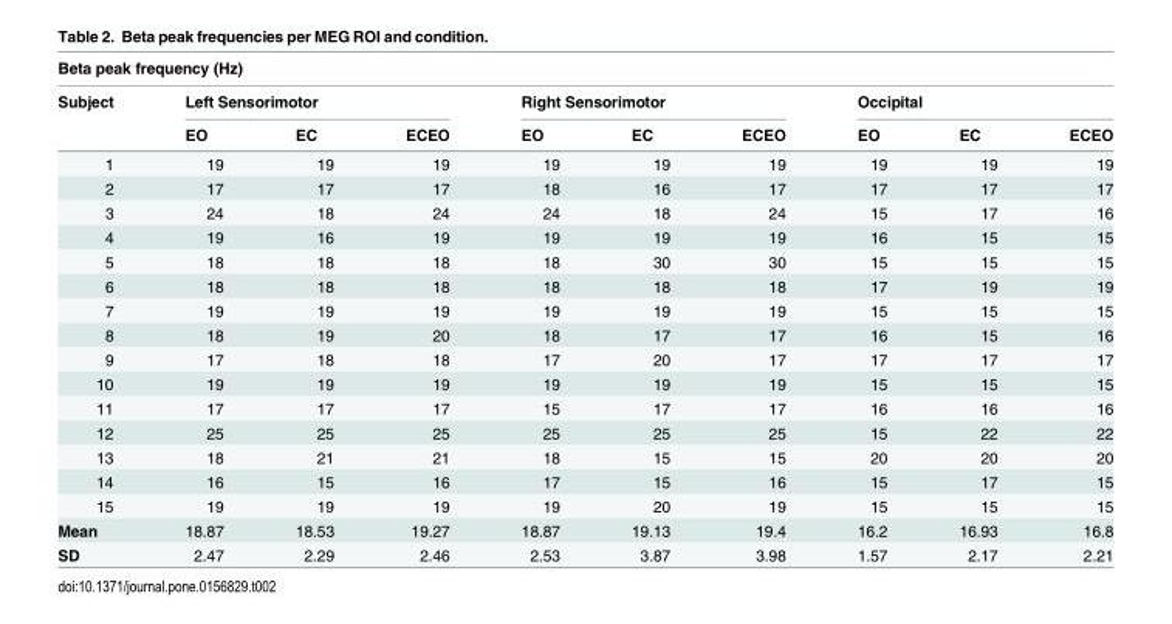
<table><thead><tr><td colspan="10">Beta peak frequency (Hz)</td></tr><tr><td rowspan="2">Subject</td><td colspan="3">Left Sensorimotor</td><td colspan="3">Right Sensorimotor</td><td colspan="3">Occipital</td></tr><tr><td>EO</td><td>EC</td><td>ECEO</td><td>EO</td><td>EC</td><td>ECEO</td><td>EO</td><td>EC</td><td>ECEO</td></tr></thead><tbody><tr><td>1</td><td>19</td><td>19</td><td>19</td><td>19</td><td>19</td><td>19</td><td>19</td><td>19</td><td>19</td></tr><tr><td>2</td><td>17</td><td>17</td><td>17</td><td>18</td><td>16</td><td>17</td><td>17</td><td>17</td><td>17</td></tr><tr><td>3</td><td>24</td><td>18</td><td>24</td><td>24</td><td>18</td><td>24</td><td>15</td><td>17</td><td>16</td></tr><tr><td>4</td><td>19</td><td>16</td><td>19</td><td>19</td><td>19</td><td>19</td><td>16</td><td>15</td><td>15</td></tr><tr><td>5</td><td>18</td><td>18</td><td>18</td><td>18</td><td>30</td><td>30</td><td>15</td><td>15</td><td>15</td></tr><tr><td>6</td><td>18</td><td>18</td><td>18</td><td>18</td><td>18</td><td>18</td><td>17</td><td>19</td><td>19</td></tr><tr><td>7</td><td>19</td><td>19</td><td>19</td><td>19</td><td>19</td><td>19</td><td>15</td><td>15</td><td>15</td></tr><tr><td>8</td><td>18</td><td>19</td><td>20</td><td>18</td><td>17</td><td>17</td><td>16</td><td>15</td><td>16</td></tr><tr><td>9</td><td>17</td><td>18</td><td>18</td><td>17</td><td>20</td><td>17</td><td>17</td><td>17</td><td>17</td></tr><tr><td>10</td><td>19</td><td>19</td><td>19</td><td>19</td><td>19</td><td>19</td><td>15</td><td>15</td><td>15</td></tr><tr><td>11</td><td>17</td><td>17</td><td>17</td><td>15</td><td>17</td><td>17</td><td>16</td><td>16</td><td>16</td></tr><tr><td>12</td><td>25</td><td>25</td><td>25</td><td>25</td><td>25</td><td>25</td><td>15</td><td>22</td><td>22</td></tr><tr><td>13</td><td>18</td><td>21</td><td>21</td><td>18</td><td>15</td><td>15</td><td>20</td><td>20</td><td>20</td></tr><tr><td>14</td><td>16</td><td>15</td><td>16</td><td>17</td><td>15</td><td>16</td><td>15</td><td>17</td><td>15</td></tr><tr><td>15</td><td>19</td><td>19</td><td>19</td><td>19</td><td>20</td><td>19</td><td>15</td><td>15</td><td>15</td></tr><tr><td>Mean</td><td>18.87</td><td>18.53</td><td>19.27</td><td>18.87</td><td>19.13</td><td>19.4</td><td>16.2</td><td>16.93</td><td>16.8</td></tr><tr><td>SD</td><td>2.47</td><td>2.29</td><td>2.46</td><td>2.53</td><td>3.87</td><td>3.98</td><td>1.57</td><td>2.17</td><td>2.21</td></tr></tbody></table>